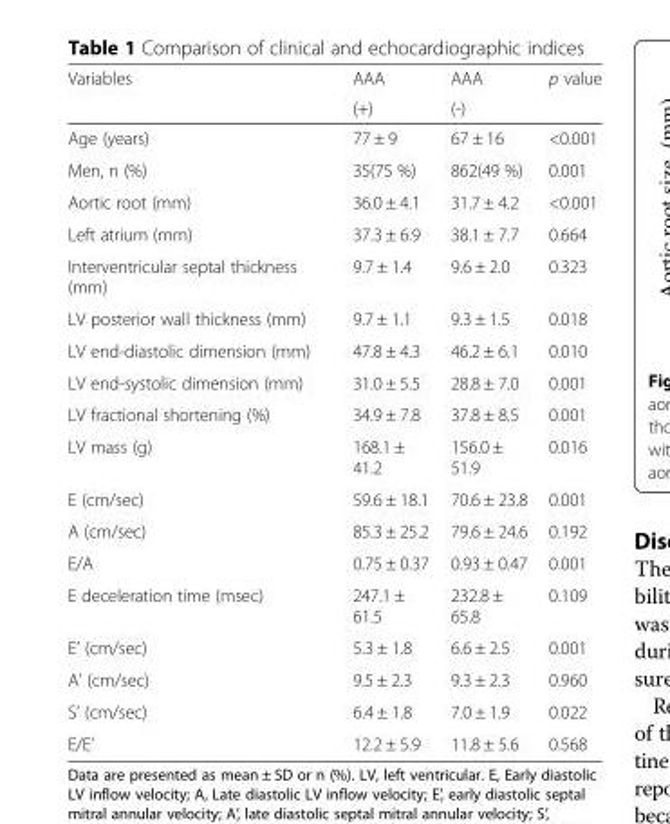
<table><thead><tr><td rowspan="2">Variables</td><td rowspan="2">AAA (+)</td><td rowspan="2">AAA (-)</td><td rowspan="2">p value</td></tr><tr></tr></thead><tbody><tr><td>Age (years)</td><td>77 ± 9</td><td>67 ± 16</td><td>&lt;0.001</td></tr><tr><td>Men, n (%)</td><td>35(75 %)</td><td>862(49 %)</td><td>0.001</td></tr><tr><td>Aortic root (mm)</td><td>36.0 ± 4.1</td><td>31.7 ± 4.2</td><td>&lt;0.001</td></tr><tr><td>Left atrium (mm)</td><td>37.3 ± 6.9</td><td>38.1 ± 7.7</td><td>0.664</td></tr><tr><td>Interventricular septal thickness (mm)</td><td>9.7 ± 1.4</td><td>9.6 ± 2.0</td><td>0.323</td></tr><tr><td>LV posterior wall thickness (mm)</td><td>9.7 ± 1.1</td><td>9.3 ± 1.5</td><td>0.018</td></tr><tr><td>LV end-diastolic dimension (mm)</td><td>47.8 ± 4.3</td><td>46.2 ± 6.1</td><td>0.010</td></tr><tr><td>LV end-systolic dimension (mm)</td><td>31.0 ± 5.5</td><td>28.8 ± 7.0</td><td>0.001</td></tr><tr><td>LV fractional shortening (%)</td><td>34.9 ± 7.8</td><td>37.8 ± 8.5</td><td>0.001</td></tr><tr><td>LV mass (g)</td><td>168.1 ± 41.2</td><td>156.0 ± 51.9</td><td>0.016</td></tr><tr><td>E (cm/sec)</td><td>59.6 ± 18.1</td><td>70.6 ± 23.8</td><td>0.001</td></tr><tr><td>A (cm/sec)</td><td>85.3 ± 25.2</td><td>79.6 ± 24.6</td><td>0.192</td></tr><tr><td>E/A</td><td>0.75 ± 0.37</td><td>0.93 ± 0.47</td><td>0.001</td></tr><tr><td>E deceleration time (msec)</td><td>247.1 ± 61.5</td><td>232.8 ± 65.8</td><td>0.109</td></tr><tr><td>E’ (cm/sec)</td><td>5.3 ± 1.8</td><td>6.6 ± 2.5</td><td>0.001</td></tr><tr><td>A’ (cm/sec)</td><td>9.5 ± 2.3</td><td>9.3 ± 2.3</td><td>0.960</td></tr><tr><td>S’ (cm/sec)</td><td>6.4 ± 1.8</td><td>7.0 ± 1.9</td><td>0.022</td></tr><tr><td>E/E’</td><td>12.2 ± 5.9</td><td>11.8 ± 5.6</td><td>0.568</td></tr></tbody></table>